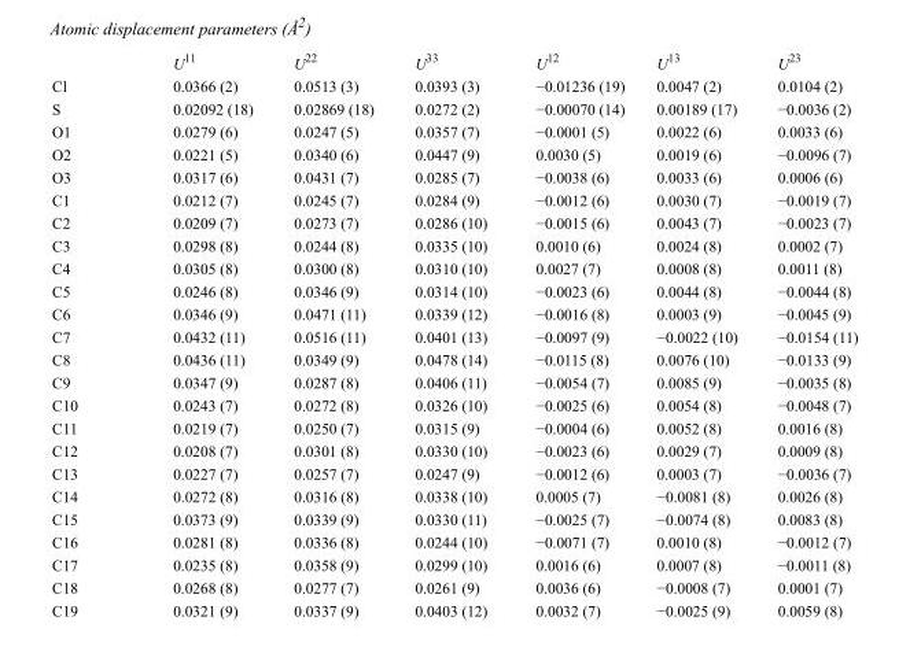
<table><thead><tr><td></td><td>U<sup>11</sup></td><td>U<sup>22</sup></td><td>U<sup>33</sup></td><td>U<sup>12</sup></td><td>U<sup>13</sup></td><td>U<sup>23</sup></td></tr></thead><tbody><tr><td>Cl</td><td>0.0366 (2)</td><td>0.0513 (3)</td><td>0.0393 (3)</td><td>−0.01236 (19)</td><td>0.0047 (2)</td><td>0.0104 (2)</td></tr><tr><td>S</td><td>0.02092 (18)</td><td>0.02869 (18)</td><td>0.0272 (2)</td><td>−0.00070 (14)</td><td>0.00189 (17)</td><td>−0.0036 (2)</td></tr><tr><td>O1</td><td>0.0279 (6)</td><td>0.0247 (5)</td><td>0.0357 (7)</td><td>−0.0001 (5)</td><td>0.0022 (6)</td><td>0.0033 (6)</td></tr><tr><td>O2</td><td>0.0221 (5)</td><td>0.0340 (6)</td><td>0.0447 (9)</td><td>0.0030 (5)</td><td>0.0019 (6)</td><td>−0.0096 (7)</td></tr><tr><td>O3</td><td>0.0317 (6)</td><td>0.0431 (7)</td><td>0.0285 (7)</td><td>−0.0038 (6)</td><td>0.0033 (6)</td><td>0.0006 (6)</td></tr><tr><td>C1</td><td>0.0212 (7)</td><td>0.0245 (7)</td><td>0.0284 (9)</td><td>−0.0012 (6)</td><td>0.0030 (7)</td><td>−0.0019 (7)</td></tr><tr><td>C2</td><td>0.0209 (7)</td><td>0.0273 (7)</td><td>0.0286 (10)</td><td>−0.0015 (6)</td><td>0.0043 (7)</td><td>−0.0023 (7)</td></tr><tr><td>C3</td><td>0.0298 (8)</td><td>0.0244 (8)</td><td>0.0335 (10)</td><td>0.0010 (6)</td><td>0.0024 (8)</td><td>0.0002 (7)</td></tr><tr><td>C4</td><td>0.0305 (8)</td><td>0.0300 (8)</td><td>0.0310 (10)</td><td>0.0027 (7)</td><td>0.0008 (8)</td><td>0.0011 (8)</td></tr><tr><td>C5</td><td>0.0246 (8)</td><td>0.0346 (9)</td><td>0.0314 (10)</td><td>−0.0023 (6)</td><td>0.0044 (8)</td><td>−0.0044 (8)</td></tr><tr><td>C6</td><td>0.0346 (9)</td><td>0.0471 (11)</td><td>0.0339 (12)</td><td>−0.0016 (8)</td><td>0.0003 (9)</td><td>−0.0045 (9)</td></tr><tr><td>C7</td><td>0.0432 (11)</td><td>0.0516 (11)</td><td>0.0401 (13)</td><td>−0.0097 (9)</td><td>−0.0022 (10)</td><td>−0.0154 (11)</td></tr><tr><td>C8</td><td>0.0436 (11)</td><td>0.0349 (9)</td><td>0.0478 (14)</td><td>−0.0115 (8)</td><td>0.0076 (10)</td><td>−0.0133 (9)</td></tr><tr><td>C9</td><td>0.0347 (9)</td><td>0.0287 (8)</td><td>0.0406 (11)</td><td>−0.0054 (7)</td><td>0.0085 (9)</td><td>−0.0035 (8)</td></tr><tr><td>C10</td><td>0.0243 (7)</td><td>0.0272 (8)</td><td>0.0326 (10)</td><td>−0.0025 (6)</td><td>0.0054 (8)</td><td>−0.0048 (7)</td></tr><tr><td>C11</td><td>0.0219 (7)</td><td>0.0250 (7)</td><td>0.0315 (9)</td><td>−0.0004 (6)</td><td>0.0052 (8)</td><td>0.0016 (8)</td></tr><tr><td>C12</td><td>0.0208 (7)</td><td>0.0301 (8)</td><td>0.0330 (10)</td><td>−0.0023 (6)</td><td>0.0029 (7)</td><td>0.0009 (8)</td></tr><tr><td>C13</td><td>0.0227 (7)</td><td>0.0257 (7)</td><td>0.0247 (9)</td><td>−0.0012 (6)</td><td>0.0003 (7)</td><td>−0.0036 (7)</td></tr><tr><td>C14</td><td>0.0272 (8)</td><td>0.0316 (8)</td><td>0.0338 (10)</td><td>0.0005 (7)</td><td>−0.0081 (8)</td><td>0.0026 (8)</td></tr><tr><td>C15</td><td>0.0373 (9)</td><td>0.0339 (9)</td><td>0.0330 (11)</td><td>−0.0025 (7)</td><td>−0.0074 (8)</td><td>0.0083 (8)</td></tr><tr><td>C16</td><td>0.0281 (8)</td><td>0.0336 (8)</td><td>0.0244 (10)</td><td>−0.0071 (7)</td><td>0.0010 (8)</td><td>−0.0012 (7)</td></tr><tr><td>C17</td><td>0.0235 (8)</td><td>0.0358 (9)</td><td>0.0299 (10)</td><td>0.0016 (6)</td><td>0.0007 (8)</td><td>−0.0011 (8)</td></tr><tr><td>C18</td><td>0.0268 (8)</td><td>0.0277 (7)</td><td>0.0261 (9)</td><td>0.0036 (6)</td><td>−0.0008 (7)</td><td>0.0001 (7)</td></tr><tr><td>C19</td><td>0.0321 (9)</td><td>0.0337 (9)</td><td>0.0403 (12)</td><td>0.0032 (7)</td><td>−0.0025 (9)</td><td>0.0059 (8)</td></tr></tbody></table>